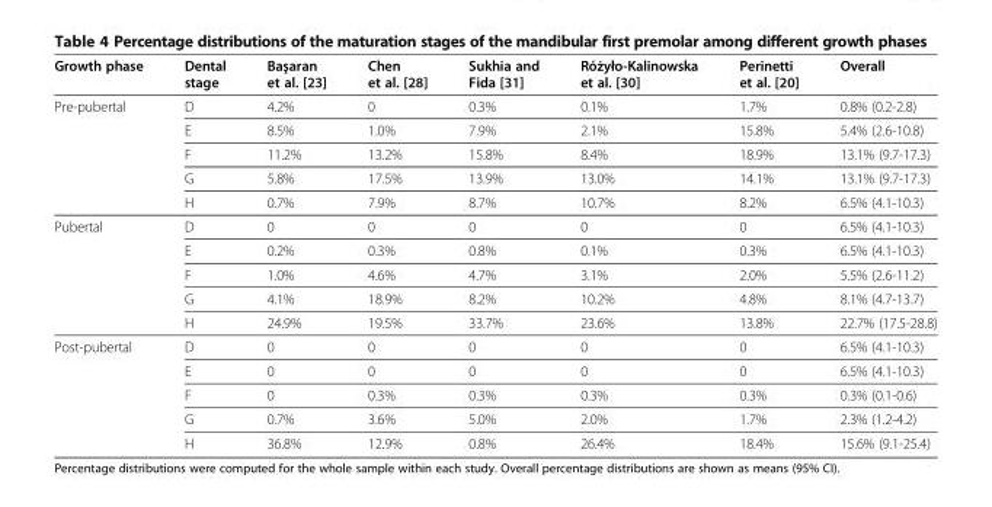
<table><thead><tr><td>Growth phase</td><td>Dental stage</td><td>Başaran et al. [23]</td><td>Chen et al. [28]</td><td>Sukhia and Fida [31]</td><td>Różyło-Kalinowska et al. [30]</td><td>Perinetti et al. [20]</td><td>Overall</td></tr></thead><tbody><tr><td rowspan="5">Pre-pubertal</td><td>D</td><td>4.2%</td><td>0</td><td>0.3%</td><td>0.1%</td><td>1.7%</td><td>0.8% (0.2-2.8)</td></tr><tr><td>E</td><td>8.5%</td><td>1.0%</td><td>7.9%</td><td>2.1%</td><td>15.8%</td><td>5.4% (2.6-10.8)</td></tr><tr><td>F</td><td>11.2%</td><td>13.2%</td><td>15.8%</td><td>8.4%</td><td>18.9%</td><td>13.1% (9.7-17.3)</td></tr><tr><td>G</td><td>5.8%</td><td>17.5%</td><td>13.9%</td><td>13.0%</td><td>14.1%</td><td>13.1% (9.7-17.3)</td></tr><tr><td>H</td><td>0.7%</td><td>7.9%</td><td>8.7%</td><td>10.7%</td><td>8.2%</td><td>6.5% (4.1-10.3)</td></tr><tr><td rowspan="5">Pubertal</td><td>D</td><td>0</td><td>0</td><td>0</td><td>0</td><td>0</td><td>6.5% (4.1-10.3)</td></tr><tr><td>E</td><td>0.2%</td><td>0.3%</td><td>0.8%</td><td>0.1%</td><td>0.3%</td><td>6.5% (4.1-10.3)</td></tr><tr><td>F</td><td>1.0%</td><td>4.6%</td><td>4.7%</td><td>3.1%</td><td>2.0%</td><td>5.5% (2.6-11.2)</td></tr><tr><td>G</td><td>4.1%</td><td>18.9%</td><td>8.2%</td><td>10.2%</td><td>4.8%</td><td>8.1% (4.7-13.7)</td></tr><tr><td>H</td><td>24.9%</td><td>19.5%</td><td>33.7%</td><td>23.6%</td><td>13.8%</td><td>22.7% (17.5-28.8)</td></tr><tr><td rowspan="5">Post-pubertal</td><td>D</td><td>0</td><td>0</td><td>0</td><td>0</td><td>0</td><td>6.5% (4.1-10.3)</td></tr><tr><td>E</td><td>0</td><td>0</td><td>0</td><td>0</td><td>0</td><td>6.5% (4.1-10.3)</td></tr><tr><td>F</td><td>0</td><td>0.3%</td><td>0.3%</td><td>0.3%</td><td>0.3%</td><td>0.3% (0.1-0.6)</td></tr><tr><td>G</td><td>0.7%</td><td>3.6%</td><td>5.0%</td><td>2.0%</td><td>1.7%</td><td>2.3% (1.2-4.2)</td></tr><tr><td>H</td><td>36.8%</td><td>12.9%</td><td>0.8%</td><td>26.4%</td><td>18.4%</td><td>15.6% (9.1-25.4)</td></tr></tbody></table>